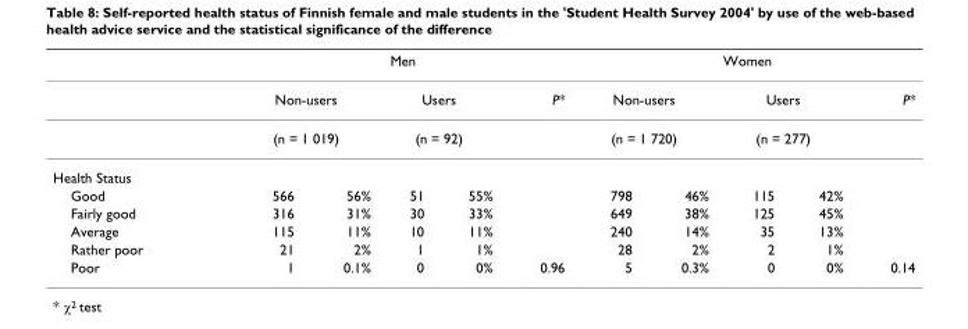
<table><thead><tr><td></td><td colspan="5">Men</td><td colspan="5">Women</td></tr></thead><tbody><tr><td></td><td colspan="2">Non-users</td><td colspan="2">Users</td><td>P*</td><td colspan="2">Non-users</td><td colspan="2">Users</td><td>P*</td></tr><tr><td></td><td colspan="2">(n = 1 019)</td><td colspan="2">(n = 92)</td><td></td><td colspan="2">(n = 1 720)</td><td colspan="2">(n = 277)</td><td></td></tr><tr><td colspan="11">Health Status</td></tr><tr><td>Good</td><td>566</td><td>56%</td><td>51</td><td>55%</td><td></td><td>798</td><td>46%</td><td>115</td><td>42%</td><td></td></tr><tr><td>Fairly good</td><td>316</td><td>31%</td><td>30</td><td>33%</td><td></td><td>649</td><td>38%</td><td>125</td><td>45%</td><td></td></tr><tr><td>Average</td><td>115</td><td>11%</td><td>10</td><td>11%</td><td></td><td>240</td><td>14%</td><td>35</td><td>13%</td><td></td></tr><tr><td>Rather poor</td><td>21</td><td>2%</td><td>1</td><td>1%</td><td></td><td>28</td><td>2%</td><td>2</td><td>1%</td><td></td></tr><tr><td>Poor</td><td>1</td><td>0.1%</td><td>0</td><td>0%</td><td>0.96</td><td>5</td><td>0.3%</td><td>0</td><td>0%</td><td>0.14</td></tr></tbody></table>